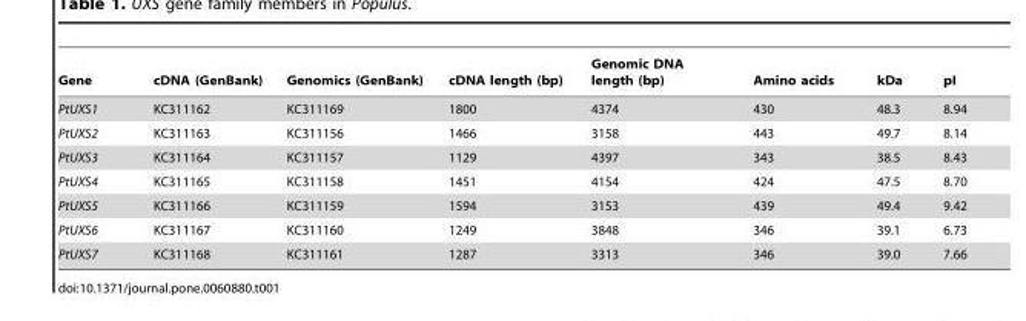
<table><thead><tr><td>Gene</td><td>cDNA (GenBank)</td><td>Genomics (GenBank)</td><td>cDNA length (bp)</td><td>Genomic DNA length (bp)</td><td>Amino acids</td><td>kDa</td><td>pI</td></tr></thead><tbody><tr><td>PtUXS1</td><td>KC311162</td><td>KC311169</td><td>1800</td><td>4374</td><td>430</td><td>48.3</td><td>8.94</td></tr><tr><td>PtUXS2</td><td>KC311163</td><td>KC311156</td><td>1466</td><td>3158</td><td>443</td><td>49.7</td><td>8.14</td></tr><tr><td>PtUXS3</td><td>KC311164</td><td>KC311157</td><td>1129</td><td>4397</td><td>343</td><td>38.5</td><td>8.43</td></tr><tr><td>PtUXS4</td><td>KC311165</td><td>KC311158</td><td>1451</td><td>4154</td><td>424</td><td>47.5</td><td>8.70</td></tr><tr><td>PtUXS5</td><td>KC311166</td><td>KC311159</td><td>1594</td><td>3153</td><td>439</td><td>49.4</td><td>9.42</td></tr><tr><td>PtUXS6</td><td>KC311167</td><td>KC311160</td><td>1249</td><td>3848</td><td>346</td><td>39.1</td><td>6.73</td></tr><tr><td>PtUXS7</td><td>KC311168</td><td>KC311161</td><td>1287</td><td>3313</td><td>346</td><td>39.0</td><td>7.66</td></tr></tbody></table>